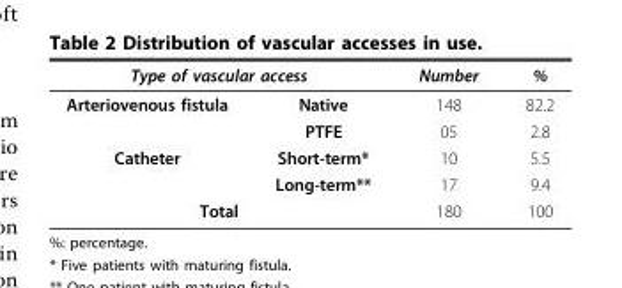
<table><tbody><tr><td colspan="2">Type of vascular access</td><td>Number</td><td>%</td></tr><tr><td rowspan="2">Arteriovenous fistula</td><td>Native</td><td>148</td><td>82.2</td></tr><tr><td>PTFE</td><td>05</td><td>2.8</td></tr><tr><td rowspan="2">Catheter</td><td>Short-term*</td><td>10</td><td>5.5</td></tr><tr><td>Long-term**</td><td>17</td><td>9.4</td></tr><tr><td colspan="2">Total</td><td>180</td><td>100</td></tr></tbody></table>